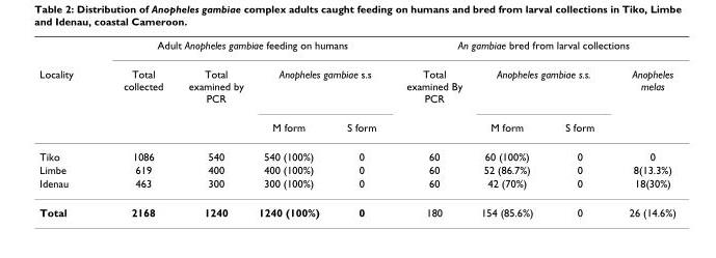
<table><thead><tr><td rowspan="3">Locality</td><td colspan="4">Adult Anopheles gambiae feeding on humans</td><td colspan="4">An gambiae bred from larval collections</td></tr><tr><td rowspan="2">Total collected</td><td rowspan="2">Total examined by PCR</td><td colspan="2">Anopheles gambiae s.s</td><td rowspan="2">Total examined By PCR</td><td colspan="2">Anopheles gambiae s.s.</td><td rowspan="2">Anopheles melas</td></tr><tr><td>M form</td><td>S form</td><td>M form</td><td>S form</td></tr></thead><tbody><tr><td>Tiko</td><td>1086</td><td>540</td><td>540 (100%)</td><td>0</td><td>60</td><td>60 (100%)</td><td>0</td><td>0</td></tr><tr><td>Limbe</td><td>619</td><td>400</td><td>400 (100%)</td><td>0</td><td>60</td><td>52 (86.7%)</td><td>0</td><td>8(13.3%)</td></tr><tr><td>Idenau</td><td>463</td><td>300</td><td>300 (100%)</td><td>0</td><td>60</td><td>42 (70%)</td><td>0</td><td>18(30%)</td></tr><tr><td>Total</td><td>2168</td><td>1240</td><td>1240 (100%)</td><td>0</td><td>180</td><td>154 (85.6%)</td><td>0</td><td>26 (14.6%)</td></tr></tbody></table>